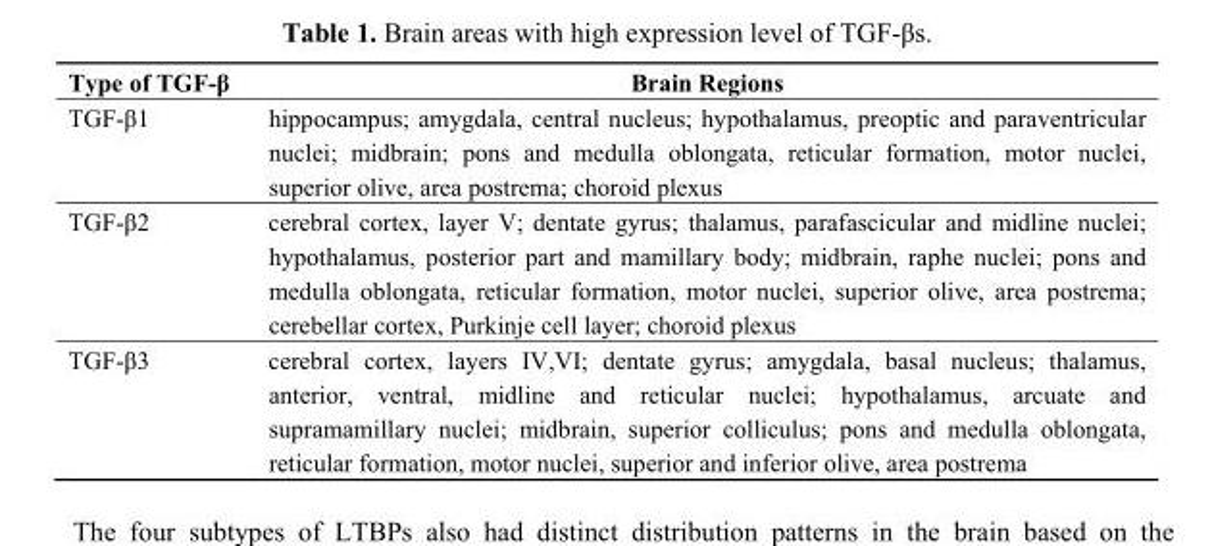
<table><thead><tr><td>Type of TGF-β</td><td>Brain Regions</td></tr></thead><tbody><tr><td>TGF-β1</td><td>hippocampus; amygdala, central nucleus; hypothalamus, preoptic and paraventricular nuclei; midbrain; pons and medulla oblongata, reticular formation, motor nuclei, superior olive, area postrema; choroid plexus</td></tr><tr><td>TGF-β2</td><td>cerebral cortex, layer V; dentate gyrus; thalamus, parafascicular and midline nuclei; hypothalamus, posterior part and mamillary body; midbrain, raphe nuclei; pons and medulla oblongata, reticular formation, motor nuclei, superior olive, area postrema; cerebellar cortex, Purkinje cell layer; choroid plexus</td></tr><tr><td>TGF-β3</td><td>cerebral cortex, layers IV,VI; dentate gyrus; amygdala, basal nucleus; thalamus, anterior, ventral, midline and reticular nuclei; hypothalamus, arcuate and supramamillary nuclei; midbrain, superior colliculus; pons and medulla oblongata, reticular formation, motor nuclei, superior and inferior olive, area postrema</td></tr></tbody></table>